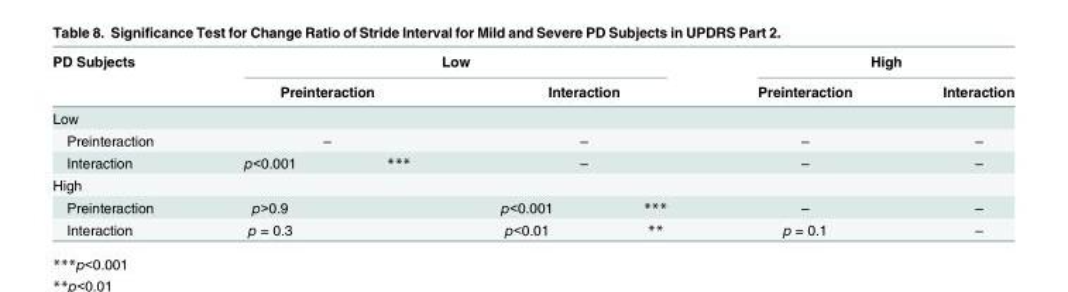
<table><thead><tr><td rowspan="2">PD Subjects</td><td colspan="4">Low</td><td colspan="2">High</td></tr><tr><td colspan="2">Preinteraction</td><td colspan="2">Interaction</td><td>Preinteraction</td><td>Interaction</td></tr></thead><tbody><tr><td colspan="7">Low</td></tr><tr><td>Preinteraction</td><td colspan="2">–</td><td colspan="2">–</td><td>–</td><td>–</td></tr><tr><td>Interaction</td><td>p&lt;0.001</td><td>***</td><td colspan="2">–</td><td>–</td><td>–</td></tr><tr><td colspan="7">High</td></tr><tr><td>Preinteraction</td><td>p&gt;0.9</td><td></td><td>p&lt;0.001</td><td>***</td><td>–</td><td>–</td></tr><tr><td>Interaction</td><td>p = 0.3</td><td></td><td>p&lt;0.01</td><td>**</td><td>p = 0.1</td><td>–</td></tr></tbody></table>